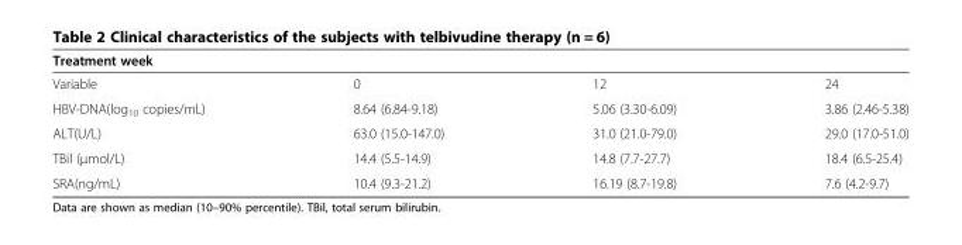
<table><thead><tr><td colspan="4">Treatment week</td></tr><tr><td>Variable</td><td>0</td><td>12</td><td>24</td></tr></thead><tbody><tr><td>HBV-DNA(log<sub>10</sub> copies/mL)</td><td>8.64 (6.84-9.18)</td><td>5.06 (3.30-6.09)</td><td>3.86 (2.46-5.38)</td></tr><tr><td>ALT(U/L)</td><td>63.0 (15.0-147.0)</td><td>31.0 (21.0-79.0)</td><td>29.0 (17.0-51.0)</td></tr><tr><td>TBil (μmol/L)</td><td>14.4 (5.5-14.9)</td><td>14.8 (7.7-27.7)</td><td>18.4 (6.5-25.4)</td></tr><tr><td>SRA(ng/mL)</td><td>10.4 (9.3-21.2)</td><td>16.19 (8.7-19.8)</td><td>7.6 (4.2-9.7)</td></tr></tbody></table>